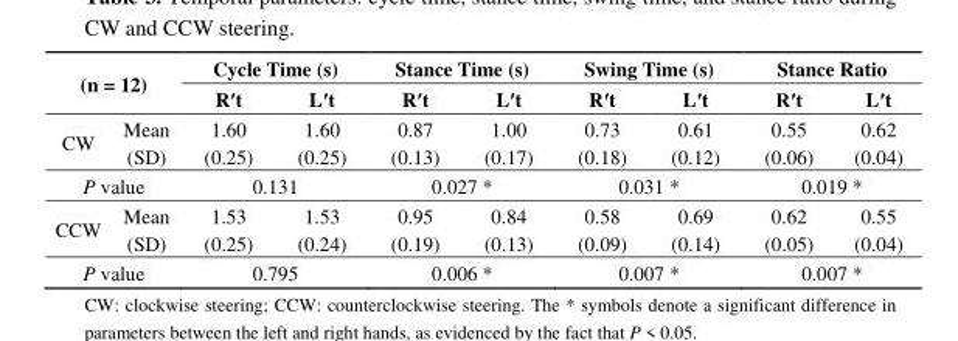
<table><thead><tr><td rowspan="2" colspan="2">(n = 12)</td><td colspan="2">Cycle Time (s)</td><td colspan="2">Stance Time (s)</td><td colspan="2">Swing Time (s)</td><td colspan="2">Stance Ratio</td></tr><tr><td rowspan="2">R′t 1.60 (0.25)</td><td rowspan="2">L′t 1.60 (0.25)</td><td rowspan="2">R′t 0.87 (0.13)</td><td rowspan="2">L′t 1.00 (0.17)</td><td rowspan="2">R′t 0.73 (0.18)</td><td rowspan="2">L′t 0.61 (0.12)</td><td rowspan="2">R′t 0.55 (0.06)</td><td rowspan="2">L′t 0.62 (0.04)</td></tr><tr><td>CW</td><td>Mean (SD)</td></tr></thead><tbody><tr><td colspan="2">P value</td><td colspan="2">0.131</td><td colspan="2">0.027 *</td><td colspan="2">0.031 *</td><td colspan="2">0.019 *</td></tr><tr><td>CCW</td><td>Mean (SD)</td><td>1.53 (0.25)</td><td>1.53 (0.24)</td><td>0.95 (0.19)</td><td>0.84 (0.13)</td><td>0.58 (0.09)</td><td>0.69 (0.14)</td><td>0.62 (0.05)</td><td>0.55 (0.04)</td></tr><tr><td colspan="2">P value</td><td colspan="2">0.795</td><td colspan="2">0.006 *</td><td colspan="2">0.007 *</td><td colspan="2">0.007 *</td></tr></tbody></table>